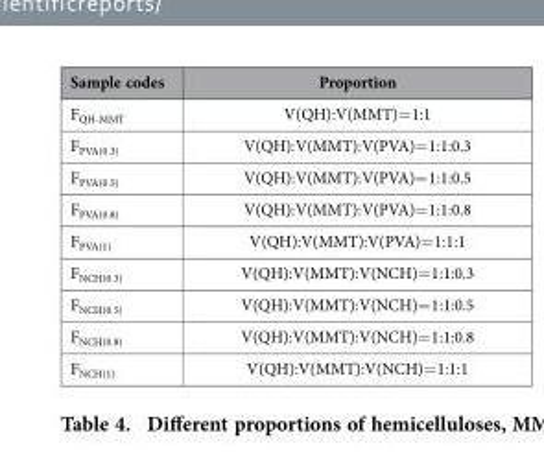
<table><thead><tr><td>Sample codes</td><td>Proportion</td></tr></thead><tbody><tr><td>F<sub>QH-MMT</sub></td><td>V(QH):V(MMT)= 1:1</td></tr><tr><td>F<sub>PVA(0.3)</sub></td><td>V(QH):V(MMT):V(PVA)= 1:1:0.3</td></tr><tr><td>F<sub>PVA(0.5)</sub></td><td>V(QH):V(MMT):V(PVA)= 1:1:0.5</td></tr><tr><td>F<sub>PVA(0.8)</sub></td><td>V(QH):V(MMT):V(PVA)= 1:1:0.8</td></tr><tr><td>F<sub>PVA(1)</sub></td><td>V(QH):V(MMT):V(PVA)= 1:1:1</td></tr><tr><td>F<sub>NCH(0.3)</sub></td><td>V(QH):V(MMT):V(NCH)= 1:1:0.3</td></tr><tr><td>F<sub>NCH(0.5)</sub></td><td>V(QH):V(MMT):V(NCH)= 1:1:0.5</td></tr><tr><td>F<sub>NCH(0.8)</sub></td><td>V(QH):V(MMT):V(NCH)= 1:1:0.8</td></tr><tr><td>F<sub>NCH(1)</sub></td><td>V(QH):V(MMT):V(NCH)= 1:1:1</td></tr></tbody></table>